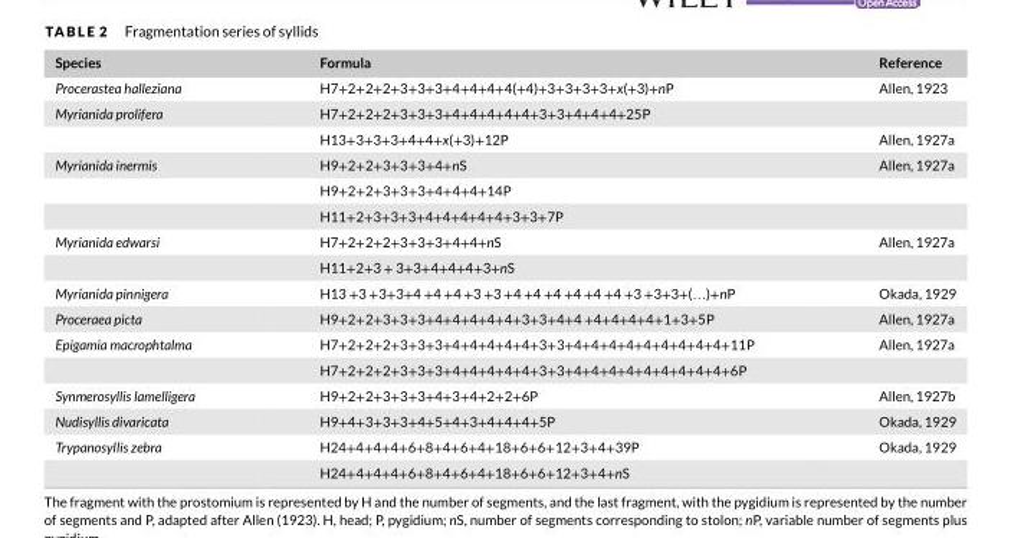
<table><thead><tr><td>Species</td><td>Formula</td><td>Reference</td></tr></thead><tbody><tr><td>Procerastea halleziana</td><td>H7+2+2+2+3+3+3+4+4+4+4(+4)+3+3+3+3+x(+3)+nP</td><td>Allen, 1923</td></tr><tr><td rowspan="2">Myrianida prolifera</td><td>H7+2+2+2+3+3+3+4+4+4+4+4+3+3+4+4+4+25P</td><td></td></tr><tr><td>H13+3+3+3+4+4+x(+3)+12P</td><td>Allen, 1927a</td></tr><tr><td rowspan="3">Myrianida inermis</td><td>H9+2+2+3+3+3+4+nS</td><td>Allen, 1927a</td></tr><tr><td>H9+2+2+3+3+3+4+4+4+14P</td><td></td></tr><tr><td>H11+2+3+3+3+4+4+4+4+4+3+3+7P</td><td></td></tr><tr><td rowspan="2">Myrianida edwarsi</td><td>H7+2+2+2+3+3+3+4+4+nS</td><td>Allen, 1927a</td></tr><tr><td>H11+2+3 + 3+3+4+4+4+3+nS</td><td></td></tr><tr><td>Myrianida pinnigera</td><td>H13 +3 +3+3+4 +4 +4 +3 +3 +4 +4 +4 +4 +4 +4 +3 +3+3+(…)+nP</td><td>Okada, 1929</td></tr><tr><td>Proceraea picta</td><td>H9+2+2+3+3+3+4+4+4+4+4+3+3+4+4 +4+4+4+4+1+3+5P</td><td>Allen, 1927a</td></tr><tr><td rowspan="2">Epigamia macrophtalma</td><td>H7+2+2+2+3+3+3+4+4+4+4+4+3+3+4+4+4+4+4+4+4+4+4+11P</td><td>Allen, 1927a</td></tr><tr><td>H7+2+2+2+3+3+3+4+4+4+4+4+3+3+4+4+4+4+4+4+4+4+4+6P</td><td></td></tr><tr><td>Synmerosyllis lamelligera</td><td>H9+2+2+3+3+3+4+3+4+2+2+6P</td><td>Allen, 1927b</td></tr><tr><td>Nudisyllis divaricata</td><td>H9+4+3+3+3+4+5+4+3+4+4+4+5P</td><td>Okada, 1929</td></tr><tr><td rowspan="2">Trypanosyllis zebra</td><td>H24+4+4+4+6+8+4+6+4+18+6+6+12+3+4+39P</td><td>Okada, 1929</td></tr><tr><td>H24+4+4+4+6+8+4+6+4+18+6+6+12+3+4+nS</td><td></td></tr></tbody></table>